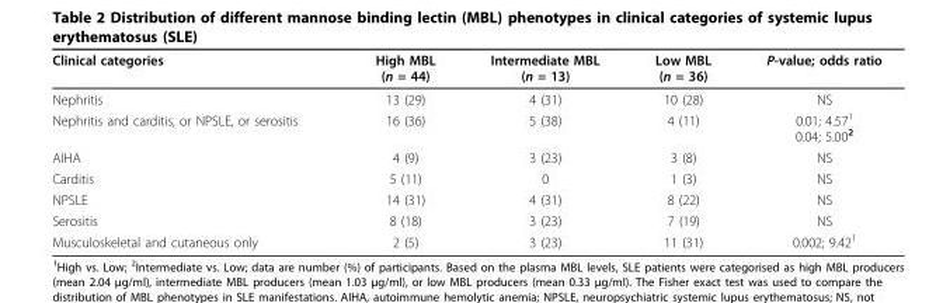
<table><thead><tr><td>Clinical categories</td><td>High MBL (n = 44)</td><td>Intermediate MBL (n = 13)</td><td>Low MBL (n = 36)</td><td>P-value; odds ratio</td></tr></thead><tbody><tr><td>Nephritis</td><td>13 (29)</td><td>4 (31)</td><td>10 (28)</td><td>NS</td></tr><tr><td>Nephritis and carditis, or NPSLE, or serositis</td><td>16 (36)</td><td>5 (38)</td><td>4 (11)</td><td>0.01; 4.57<sup>1</sup> 0.04; 5.00<sup>2</sup></td></tr><tr><td>AIHA</td><td>4 (9)</td><td>3 (23)</td><td>3 (8)</td><td>NS</td></tr><tr><td>Carditis</td><td>5 (11)</td><td>0</td><td>1 (3)</td><td>NS</td></tr><tr><td>NPSLE</td><td>14 (31)</td><td>4 (31)</td><td>8 (22)</td><td>NS</td></tr><tr><td>Serositis</td><td>8 (18)</td><td>3 (23)</td><td>7 (19)</td><td>NS</td></tr><tr><td>Musculoskeletal and cutaneous only</td><td>2 (5)</td><td>3 (23)</td><td>11 (31)</td><td>0.002; 9.42<sup>1</sup></td></tr></tbody></table>